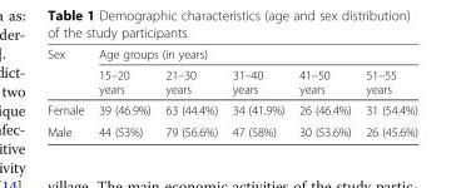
<table><thead><tr><td rowspan="2">Sex</td><td colspan="5">Age groups (in years)</td></tr><tr><td>15–20 years</td><td>21–30 years</td><td>31–40 years</td><td>41–50 years</td><td>51–55 years</td></tr></thead><tbody><tr><td>Female</td><td>39 (46.9%)</td><td>63 (44.4%)</td><td>34 (41.9%)</td><td>26 (46.4%)</td><td>31 (54.4%)</td></tr><tr><td>Male</td><td>44 (53%)</td><td>79 (56.6%)</td><td>47 (58%)</td><td>30 (53.6%)</td><td>26 (45.6%)</td></tr></tbody></table>